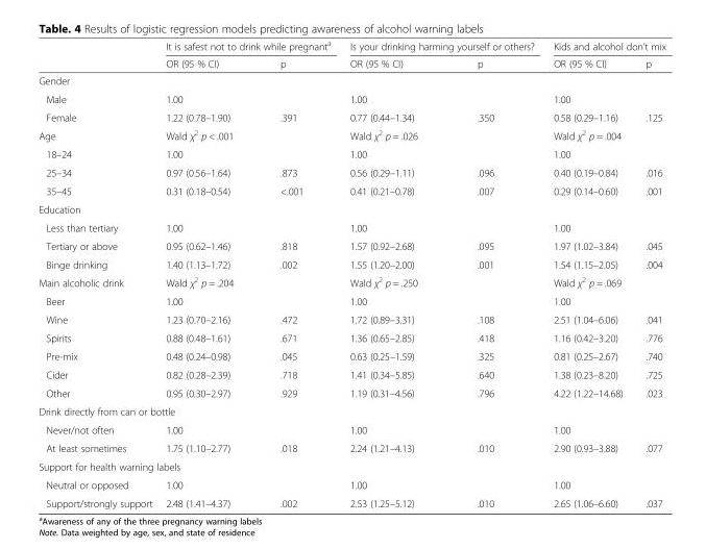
<table><thead><tr><td rowspan="2"></td><td colspan="2">It is safest not to drink while pregnant<sup>a</sup></td><td colspan="2">Is your drinking harming yourself or others?</td><td colspan="2">Kids and alcohol don’t mix</td></tr><tr><td>OR (95 % CI)</td><td>p</td><td>OR (95 % CI)</td><td>p</td><td>OR (95 % CI)</td><td>p</td></tr></thead><tbody><tr><td colspan="7">Gender</td></tr><tr><td>Male</td><td>1.00</td><td></td><td>1.00</td><td></td><td>1.00</td><td></td></tr><tr><td>Female</td><td>1.22 (0.78–1.90)</td><td>.391</td><td>0.77 (0.44–1.34)</td><td>.350</td><td>0.58 (0.29–1.16)</td><td>.125</td></tr><tr><td>Age</td><td>Wald χ<sup>2</sup> p &lt; .001</td><td></td><td>Wald χ<sup>2</sup> p = .026</td><td></td><td>Wald χ<sup>2</sup> p = .004</td><td></td></tr><tr><td>18–24</td><td>1.00</td><td></td><td>1.00</td><td></td><td>1.00</td><td></td></tr><tr><td>25–34</td><td>0.97 (0.56–1.64)</td><td>.873</td><td>0.56 (0.29–1.11)</td><td>.096</td><td>0.40 (0.19–0.84)</td><td>.016</td></tr><tr><td>35–45</td><td>0.31 (0.18–0.54)</td><td>&lt;.001</td><td>0.41 (0.21–0.78)</td><td>.007</td><td>0.29 (0.14–0.60)</td><td>.001</td></tr><tr><td colspan="7">Education</td></tr><tr><td>Less than tertiary</td><td>1.00</td><td></td><td>1.00</td><td></td><td>1.00</td><td></td></tr><tr><td>Tertiary or above</td><td>0.95 (0.62–1.46)</td><td>.818</td><td>1.57 (0.92–2.68)</td><td>.095</td><td>1.97 (1.02–3.84)</td><td>.045</td></tr><tr><td>Binge drinking</td><td>1.40 (1.13–1.72)</td><td>.002</td><td>1.55 (1.20–2.00)</td><td>.001</td><td>1.54 (1.15–2.05)</td><td>.004</td></tr><tr><td>Main alcoholic drink</td><td>Wald χ<sup>2</sup> p = .204</td><td></td><td>Wald χ<sup>2</sup> p = .250</td><td></td><td>Wald χ<sup>2</sup> p = .069</td><td></td></tr><tr><td>Beer</td><td>1.00</td><td></td><td>1.00</td><td></td><td>1.00</td><td></td></tr><tr><td>Wine</td><td>1.23 (0.70–2.16)</td><td>.472</td><td>1.72 (0.89–3.31)</td><td>.108</td><td>2.51 (1.04–6.06)</td><td>.041</td></tr><tr><td>Spirits</td><td>0.88 (0.48–1.61)</td><td>.671</td><td>1.36 (0.65–2.85)</td><td>.418</td><td>1.16 (0.42–3.20)</td><td>.776</td></tr><tr><td>Pre-mix</td><td>0.48 (0.24–0.98)</td><td>.045</td><td>0.63 (0.25–1.59)</td><td>.325</td><td>0.81 (0.25–2.67)</td><td>.740</td></tr><tr><td>Cider</td><td>0.82 (0.28–2.39)</td><td>.718</td><td>1.41 (0.34–5.85)</td><td>.640</td><td>1.38 (0.23–8.20)</td><td>.725</td></tr><tr><td>Other</td><td>0.95 (0.30–2.97)</td><td>.929</td><td>1.19 (0.31–4.56)</td><td>.796</td><td>4.22 (1.22–14.68)</td><td>.023</td></tr><tr><td colspan="7">Drink directly from can or bottle</td></tr><tr><td>Never/not often</td><td>1.00</td><td></td><td>1.00</td><td></td><td>1.00</td><td></td></tr><tr><td>At least sometimes</td><td>1.75 (1.10–2.77)</td><td>.018</td><td>2.24 (1.21–4.13)</td><td>.010</td><td>2.90 (0.93–3.88)</td><td>.077</td></tr><tr><td colspan="7">Support for health warning labels</td></tr><tr><td>Neutral or opposed</td><td>1.00</td><td></td><td>1.00</td><td></td><td>1.00</td><td></td></tr><tr><td>Support/strongly support</td><td>2.48 (1.41–4.37)</td><td>.002</td><td>2.53 (1.25–5.12)</td><td>.010</td><td>2.65 (1.06–6.60)</td><td>.037</td></tr></tbody></table>